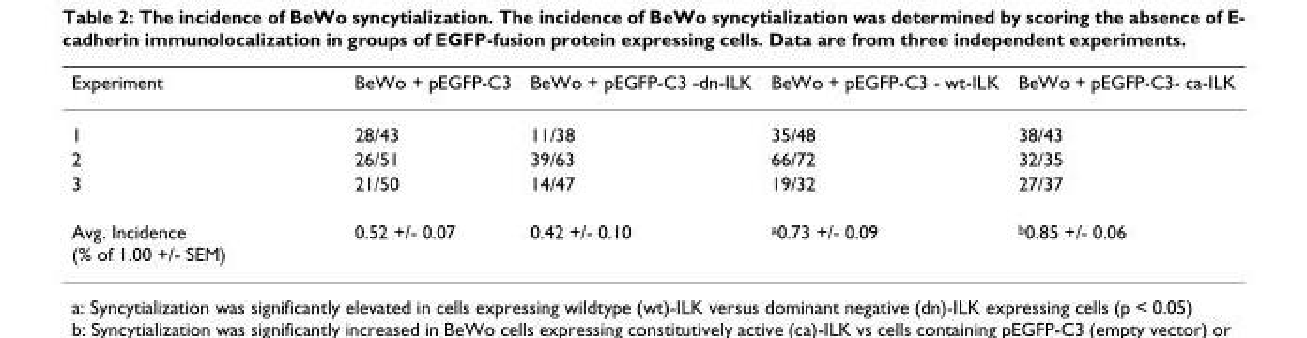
<table><thead><tr><td>Experiment</td><td>BeWo + pEGFP-C3</td><td>BeWo + pEGFP-C3 -dn-ILK</td><td>BeWo + pEGFP-C3 - wt-ILK</td><td>BeWo + pEGFP-C3- ca-ILK</td></tr></thead><tbody><tr><td>1</td><td>28/43</td><td>11/38</td><td>35/48</td><td>38/43</td></tr><tr><td>2</td><td>26/51</td><td>39/63</td><td>66/72</td><td>32/35</td></tr><tr><td>3</td><td>21/50</td><td>14/47</td><td>19/32</td><td>27/37</td></tr><tr><td>Avg. Incidence (% of 1.00 +/- SEM)</td><td>0.52 +/- 0.07</td><td>0.42 +/- 0.10</td><td><sup>a</sup>0.73 +/- 0.09</td><td><sup>b</sup>0.85 +/- 0.06</td></tr></tbody></table>